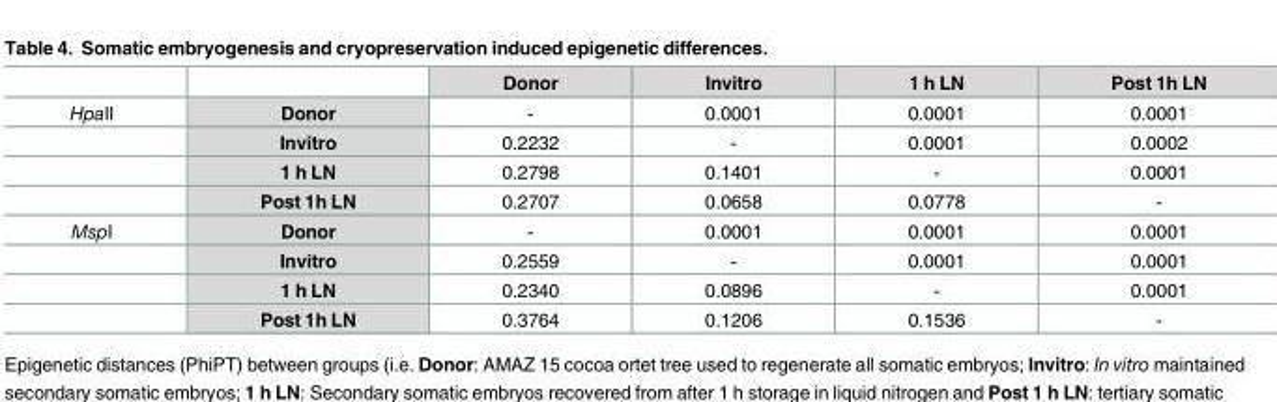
<table><thead><tr><td></td><td></td><td>Donor</td><td>Invitro</td><td>1 h LN</td><td>Post 1h LN</td></tr></thead><tbody><tr><td rowspan="4">HpaII</td><td>Donor</td><td>-</td><td>0.0001</td><td>0.0001</td><td>0.0001</td></tr><tr><td>Invitro</td><td>0.2232</td><td>-</td><td>0.0001</td><td>0.0002</td></tr><tr><td>1 h LN</td><td>0.2798</td><td>0.1401</td><td>-</td><td>0.0001</td></tr><tr><td>Post 1h LN</td><td>0.2707</td><td>0.0658</td><td>0.0778</td><td>-</td></tr><tr><td rowspan="4">MspI</td><td>Donor</td><td>-</td><td>0.0001</td><td>0.0001</td><td>0.0001</td></tr><tr><td>Invitro</td><td>0.2559</td><td>-</td><td>0.0001</td><td>0.0001</td></tr><tr><td>1 h LN</td><td>0.2340</td><td>0.0896</td><td>-</td><td>0.0001</td></tr><tr><td>Post 1h LN</td><td>0.3764</td><td>0.1206</td><td>0.1536</td><td>-</td></tr></tbody></table>